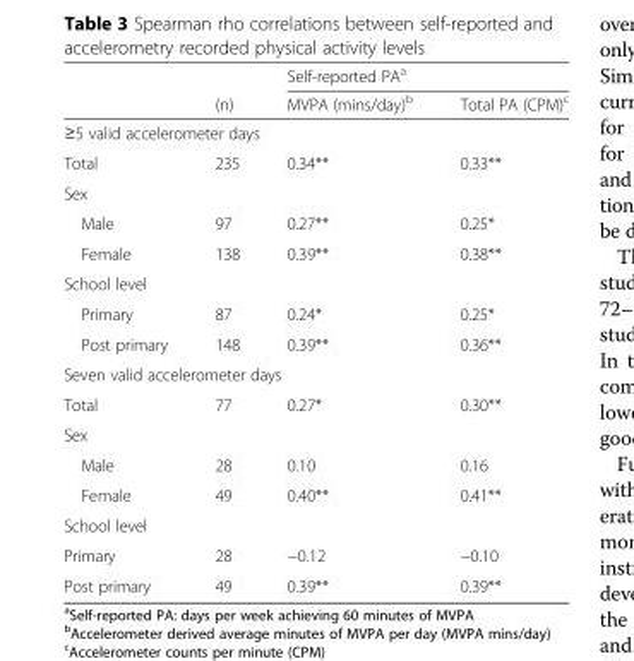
<table><thead><tr><td rowspan="2"></td><td rowspan="2">(n)</td><td colspan="2">Self-reported PA<sup>a</sup></td></tr><tr><td>MVPA (mins/day)<sup>b</sup></td><td>Total PA (CPM)<sup>c</sup></td></tr></thead><tbody><tr><td colspan="4">≥5 valid accelerometer days</td></tr><tr><td>Total</td><td>235</td><td>0.34**</td><td>0.33**</td></tr><tr><td colspan="4">Sex</td></tr><tr><td>Male</td><td>97</td><td>0.27**</td><td>0.25*</td></tr><tr><td>Female</td><td>138</td><td>0.39**</td><td>0.38**</td></tr><tr><td colspan="4">School level</td></tr><tr><td>Primary</td><td>87</td><td>0.24*</td><td>0.25*</td></tr><tr><td>Post primary</td><td>148</td><td>0.39**</td><td>0.36**</td></tr><tr><td colspan="4">Seven valid accelerometer days</td></tr><tr><td>Total</td><td>77</td><td>0.27*</td><td>0.30**</td></tr><tr><td colspan="4">Sex</td></tr><tr><td>Male</td><td>28</td><td>0.10</td><td>0.16</td></tr><tr><td>Female</td><td>49</td><td>0.40**</td><td>0.41**</td></tr><tr><td colspan="4">School level</td></tr><tr><td>Primary</td><td>28</td><td>−0.12</td><td>−0.10</td></tr><tr><td>Post primary</td><td>49</td><td>0.39**</td><td>0.39**</td></tr></tbody></table>